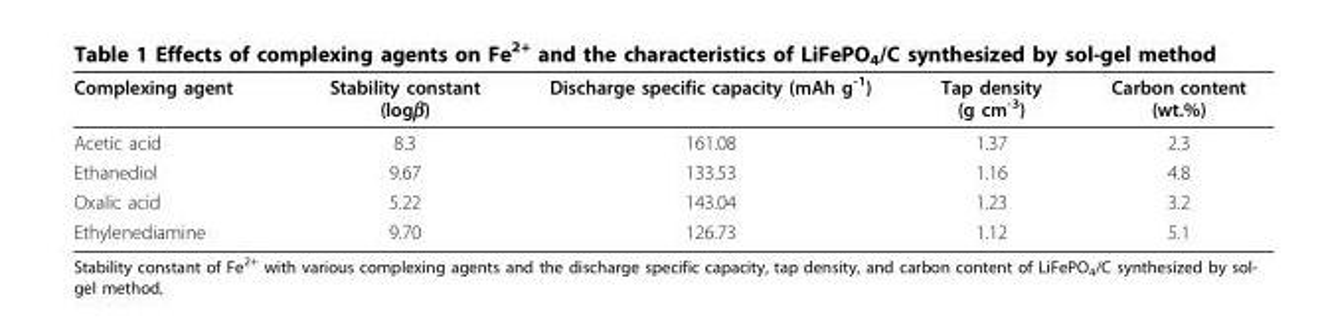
<table><thead><tr><td>Complexing agent</td><td>Stability constant (logβ)</td><td>Discharge specific capacity (mAh g<sup>-1</sup>)</td><td>Tap density (g cm<sup>-3</sup>)</td><td>Carbon content (wt.%)</td></tr></thead><tbody><tr><td>Acetic acid</td><td>8.3</td><td>161.08</td><td>1.37</td><td>2.3</td></tr><tr><td>Ethanediol</td><td>9.67</td><td>133.53</td><td>1.16</td><td>4.8</td></tr><tr><td>Oxalic acid</td><td>5.22</td><td>143.04</td><td>1.23</td><td>3.2</td></tr><tr><td>Ethylenediamine</td><td>9.70</td><td>126.73</td><td>1.12</td><td>5.1</td></tr></tbody></table>